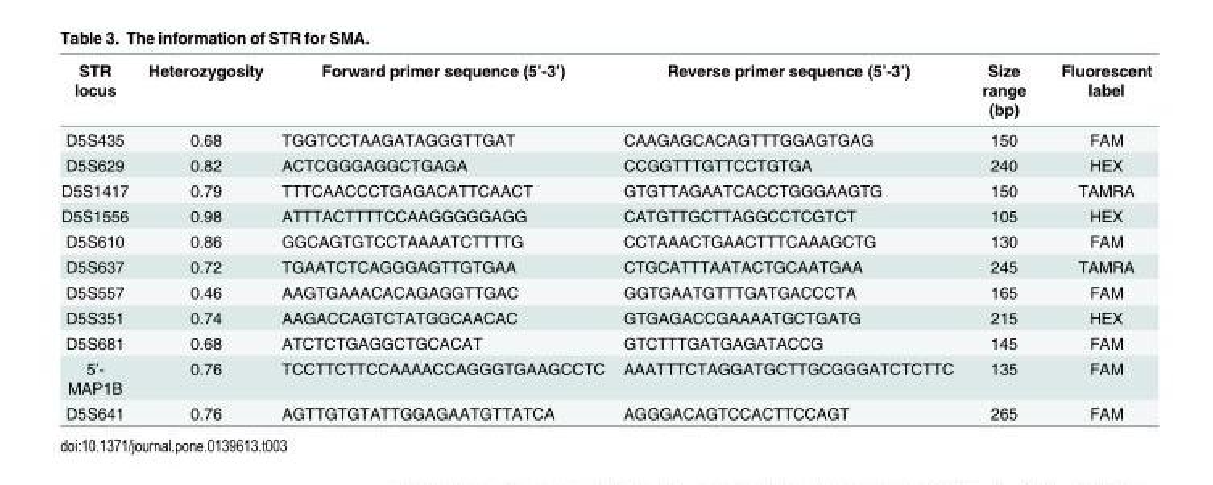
<table><thead><tr><td>STR locus</td><td>Heterozygosity</td><td>Forward primer sequence (5’-3’)</td><td>Reverse primer sequence (5’-3’)</td><td>Size range (bp)</td><td>Fluorescent label</td></tr></thead><tbody><tr><td>D5S435</td><td>0.68</td><td>TGGTCCTAAGATAGGGTTGAT</td><td>CAAGAGCACAGTTTGGAGTGAG</td><td>150</td><td>FAM</td></tr><tr><td>D5S629</td><td>0.82</td><td>ACTCGGGAGGCTGAGA</td><td>CCGGTTTGTTCCTGTGA</td><td>240</td><td>HEX</td></tr><tr><td>D5S1417</td><td>0.79</td><td>TTTCAACCCTGAGACATTCAACT</td><td>GTGTTAGAATCACCTGGGAAGTG</td><td>150</td><td>TAMRA</td></tr><tr><td>D5S1556</td><td>0.98</td><td>ATTTACTTTTCCAAGGGGGAGG</td><td>CATGTTGCTTAGGCCTCGTCT</td><td>105</td><td>HEX</td></tr><tr><td>D5S610</td><td>0.86</td><td>GGCAGTGTCCTAAAATCTTTTG</td><td>CCTAAACTGAACTTTCAAAGCTG</td><td>130</td><td>FAM</td></tr><tr><td>D5S637</td><td>0.72</td><td>TGAATCTCAGGGAGTTGTGAA</td><td>CTGCATTTAATACTGCAATGAA</td><td>245</td><td>TAMRA</td></tr><tr><td>D5S557</td><td>0.46</td><td>AAGTGAAACACAGAGGTTGAC</td><td>GGTGAATGTTTGATGACCCTA</td><td>165</td><td>FAM</td></tr><tr><td>D5S351</td><td>0.74</td><td>AAGACCAGTCTATGGCAACAC</td><td>GTGAGACCGAAAATGCTGATG</td><td>215</td><td>HEX</td></tr><tr><td>D5S681</td><td>0.68</td><td>ATCTCTGAGGCTGCACAT</td><td>GTCTTTGATGAGATACCG</td><td>145</td><td>FAM</td></tr><tr><td>5’- MAP1B</td><td>0.76</td><td>TCCTTCTTCCAAAACCAGGGTGAAGCCTC</td><td>AAATTTCTAGGATGCTTGCGGGATCTCTTC</td><td>135</td><td>FAM</td></tr><tr><td>D5S641</td><td>0.76</td><td>AGTTGTGTATTGGAGAATGTTATCA</td><td>AGGGACAGTCCACTTCCAGT</td><td>265</td><td>FAM</td></tr></tbody></table>